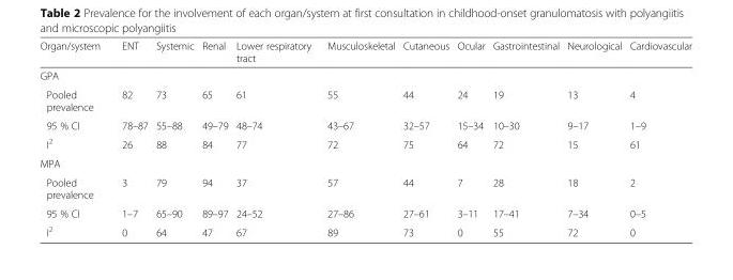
<table><thead><tr><td>Organ/system</td><td>ENT</td><td>Systemic</td><td>Renal</td><td>Lower respiratory tract</td><td>Musculoskeletal</td><td>Cutaneous</td><td>Ocular</td><td>Gastrointestinal</td><td>Neurological</td><td>Cardiovascular</td></tr></thead><tbody><tr><td colspan="11">GPA</td></tr><tr><td>Pooled prevalence</td><td>82</td><td>73</td><td>65</td><td>61</td><td>55</td><td>44</td><td>24</td><td>19</td><td>13</td><td>4</td></tr><tr><td>95 % CI</td><td>78–87</td><td>55–88</td><td>49–79</td><td>48–74</td><td>43–67</td><td>32–57</td><td>15–34</td><td>10–30</td><td>9–17</td><td>1–9</td></tr><tr><td>I<sup>2</sup></td><td>26</td><td>88</td><td>84</td><td>77</td><td>72</td><td>75</td><td>64</td><td>72</td><td>15</td><td>61</td></tr><tr><td colspan="11">MPA</td></tr><tr><td>Pooled prevalence</td><td>3</td><td>79</td><td>94</td><td>37</td><td>57</td><td>44</td><td>7</td><td>28</td><td>18</td><td>2</td></tr><tr><td>95 % CI</td><td>1–7</td><td>65–90</td><td>89–97</td><td>24–52</td><td>27–86</td><td>27–61</td><td>3–11</td><td>17–41</td><td>7–34</td><td>0–5</td></tr><tr><td>I<sup>2</sup></td><td>0</td><td>64</td><td>47</td><td>67</td><td>89</td><td>73</td><td>0</td><td>55</td><td>72</td><td>0</td></tr></tbody></table>